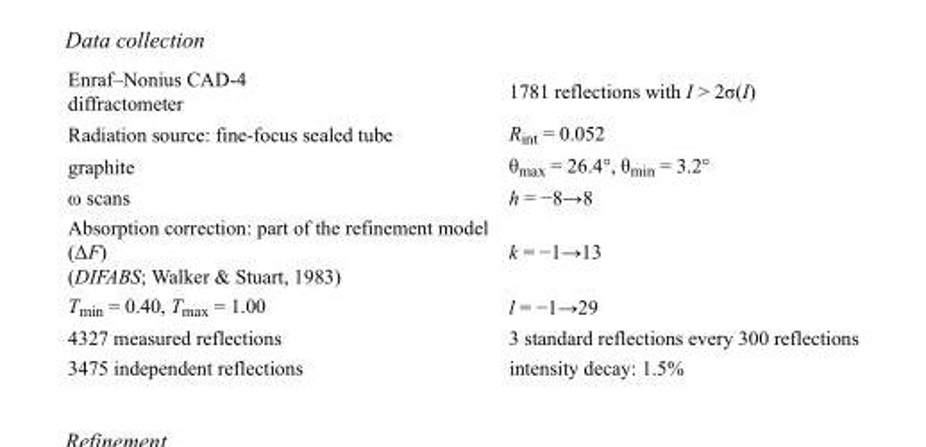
<table><tbody><tr><td>Enraf–Nonius CAD-4 diffractometer</td><td>1781 reflections with I &gt; 2σ(I)</td></tr><tr><td>Radiation source: fine-focus sealed tube</td><td>R<sub>int</sub> = 0.052</td></tr><tr><td>graphite</td><td>θ<sub>max</sub> = 26.4°, θ<sub>min</sub> = 3.2°</td></tr><tr><td>ω scans</td><td>h = −8→8</td></tr><tr><td>Absorption correction: part of the refinement model (ΔF) (DIFABS; Walker &amp; Stuart, 1983)</td><td>k = −1→13</td></tr><tr><td>T<sub>min</sub> = 0.40, T<sub>max</sub> = 1.00</td><td>l = −1→29</td></tr><tr><td>4327 measured reflections</td><td>3 standard reflections every 300 reflections</td></tr><tr><td>3475 independent reflections</td><td>intensity decay: 1.5%</td></tr></tbody></table>